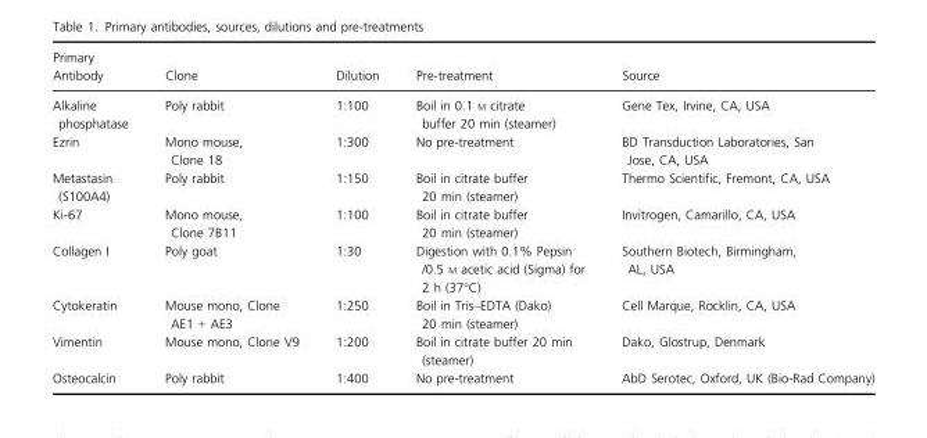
<table><thead><tr><td>Primary Antibody</td><td>Clone</td><td>Dilution</td><td>Pre-treatment</td><td>Source</td></tr></thead><tbody><tr><td>Alkaline phosphatase</td><td>Poly rabbit</td><td>1:100</td><td>Boil in 0.1 M citrate buffer 20 min (steamer)</td><td>Gene Tex, Irvine, CA, USA</td></tr><tr><td>Ezrin</td><td>Mono mouse, Clone 18</td><td>1:300</td><td>No pre-treatment</td><td>BD Transduction Laboratories, San Jose, CA, USA</td></tr><tr><td>Metastasin (S100A4)</td><td>Poly rabbit</td><td>1:150</td><td>Boil in citrate buffer 20 min (steamer)</td><td>Thermo Scientific, Fremont, CA, USA</td></tr><tr><td>Ki-67</td><td>Mono mouse, Clone 7B11</td><td>1:100</td><td>Boil in citrate buffer 20 min (steamer)</td><td>Invitrogen, Camarillo, CA, USA</td></tr><tr><td>Collagen I</td><td>Poly goat</td><td>1:30</td><td>Digestion with 0.1% Pepsin /0.5 M acetic acid (Sigma) for 2 h (37°C)</td><td>Southern Biotech, Birmingham, AL, USA</td></tr><tr><td>Cytokeratin</td><td>Mouse mono, Clone AE1 + AE3</td><td>1:250</td><td>Boil in Tris–EDTA (Dako) 20 min (steamer)</td><td>Cell Marque, Rocklin, CA, USA</td></tr><tr><td>Vimentin</td><td>Mouse mono, Clone V9</td><td>1:200</td><td>Boil in citrate buffer 20 min (steamer)</td><td>Dako, Glostrup, Denmark</td></tr><tr><td>Osteocalcin</td><td>Poly rabbit</td><td>1:400</td><td>No pre-treatment</td><td>AbD Serotec, Oxford, UK (Bio-Rad Company)</td></tr></tbody></table>